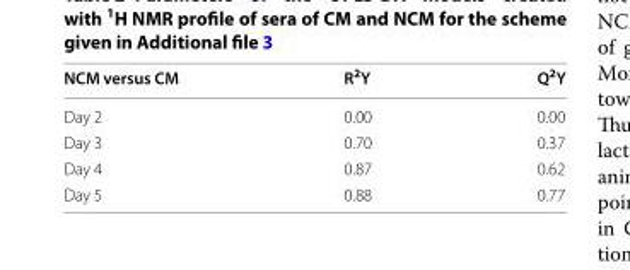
<table><thead><tr><td>NCM versus CM</td><td>R<sup>2</sup>Y</td><td>Q<sup>2</sup>Y</td></tr></thead><tbody><tr><td>Day 2</td><td>0.00</td><td>0.00</td></tr><tr><td>Day 3</td><td>0.70</td><td>0.37</td></tr><tr><td>Day 4</td><td>0.87</td><td>0.62</td></tr><tr><td>Day 5</td><td>0.88</td><td>0.77</td></tr></tbody></table>